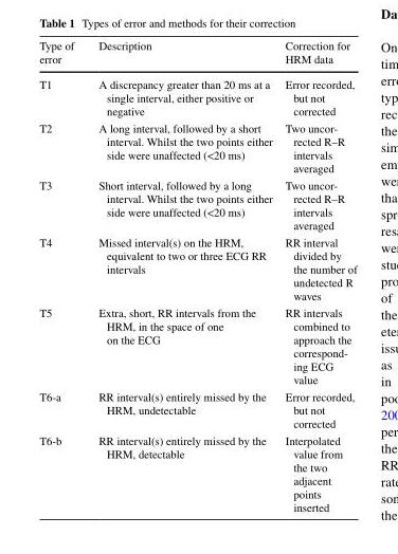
<table><thead><tr><td>Type of error</td><td>Description</td><td>Correction for HRM data</td></tr></thead><tbody><tr><td>T1</td><td>A discrepancy greater than 20 ms at a single interval, either positive or negative</td><td>Error recorded, but not corrected</td></tr><tr><td>T2</td><td>A long interval, followed by a short interval. Whilst the two points either side were unaffected (&lt;20 ms)</td><td>Two uncor- rected R–R intervals averaged</td></tr><tr><td>T3</td><td>Short interval, followed by a long interval. Whilst the two points either side were unaffected (&lt;20 ms)</td><td>Two uncor- rected R–R intervals averaged</td></tr><tr><td>T4</td><td>Missed interval(s) on the HRM, equivalent to two or three ECG RR intervals</td><td>RR interval divided by the number of undetected R waves</td></tr><tr><td>T5</td><td>Extra, short, RR intervals from the HRM, in the space of one on the ECG</td><td>RR intervals combined to approach the correspond- ing ECG value</td></tr><tr><td>T6-a</td><td>RR interval(s) entirely missed by the HRM, undetectable</td><td>Error recorded, but not corrected</td></tr><tr><td>T6-b</td><td>RR interval(s) entirely missed by the HRM, detectable</td><td>Interpolated value from the two adjacent points inserted</td></tr></tbody></table>